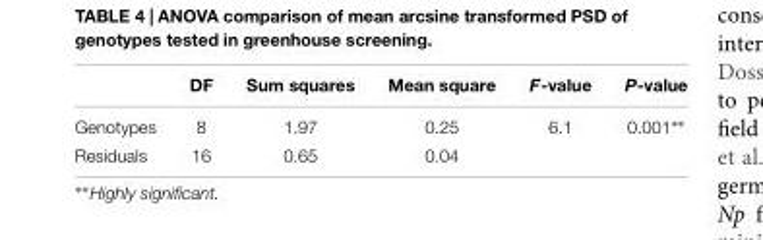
<table><thead><tr><td></td><td>DF</td><td>Sum squares</td><td>Mean square</td><td>F-value</td><td>P-value</td></tr></thead><tbody><tr><td>Genotypes</td><td>8</td><td>1.97</td><td>0.25</td><td>6.1</td><td>0.001∗∗</td></tr><tr><td>Residuals</td><td>16</td><td>0.65</td><td>0.04</td><td></td><td></td></tr></tbody></table>